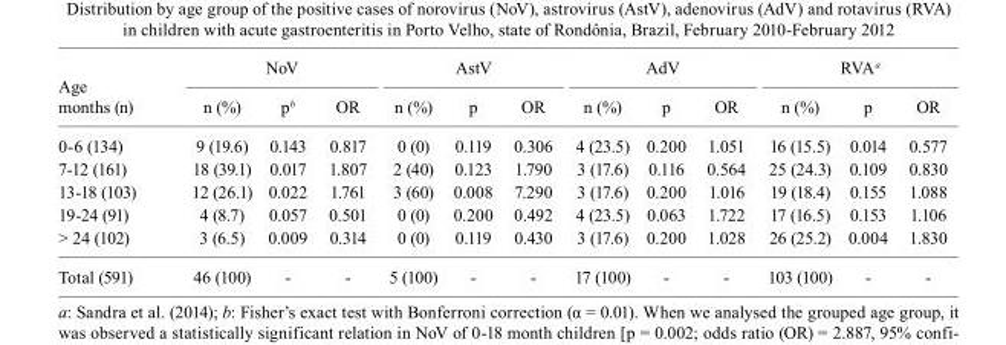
<table><thead><tr><td rowspan="2">Age months (n)</td><td colspan="3">NoV</td><td colspan="3">AstV</td><td colspan="3">AdV</td><td colspan="3">RVA<sup>a</sup></td></tr><tr><td>n (%)</td><td>p<sup>b</sup></td><td>OR</td><td>n (%)</td><td>p</td><td>OR</td><td>n (%)</td><td>p</td><td>OR</td><td>n (%)</td><td>p</td><td>OR</td></tr></thead><tbody><tr><td>0-6 (134)</td><td>9 (19.6)</td><td>0.143</td><td>0.817</td><td>0 (0)</td><td>0.119</td><td>0.306</td><td>4 (23.5)</td><td>0.200</td><td>1.051</td><td>16 (15.5)</td><td>0.014</td><td>0.577</td></tr><tr><td>7-12 (161)</td><td>18 (39.1)</td><td>0.017</td><td>1.807</td><td>2 (40)</td><td>0.123</td><td>1.790</td><td>3 (17.6)</td><td>0.116</td><td>0.564</td><td>25 (24.3)</td><td>0.109</td><td>0.830</td></tr><tr><td>13-18 (103)</td><td>12 (26.1)</td><td>0.022</td><td>1.761</td><td>3 (60)</td><td>0.008</td><td>7.290</td><td>3 (17.6)</td><td>0.200</td><td>1.016</td><td>19 (18.4)</td><td>0.155</td><td>1.088</td></tr><tr><td>19-24 (91)</td><td>4 (8.7)</td><td>0.057</td><td>0.501</td><td>0 (0)</td><td>0.200</td><td>0.492</td><td>4 (23.5)</td><td>0.063</td><td>1.722</td><td>17 (16.5)</td><td>0.153</td><td>1.106</td></tr><tr><td>&gt; 24 (102)</td><td>3 (6.5)</td><td>0.009</td><td>0.314</td><td>0 (0)</td><td>0.119</td><td>0.430</td><td>3 (17.6)</td><td>0.200</td><td>1.028</td><td>26 (25.2)</td><td>0.004</td><td>1.830</td></tr><tr><td>Total (591)</td><td>46 (100)</td><td>-</td><td>-</td><td>5 (100)</td><td>-</td><td>-</td><td>17 (100)</td><td>-</td><td>-</td><td>103 (100)</td><td>-</td><td>-</td></tr></tbody></table>